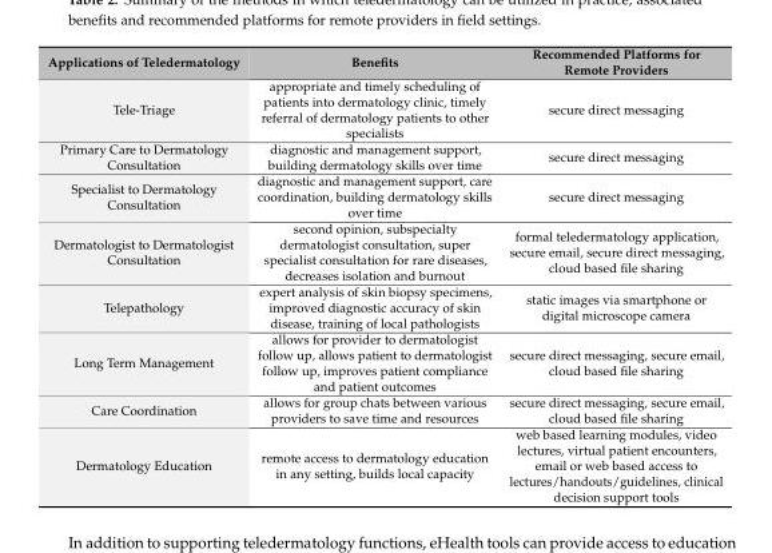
<table><thead><tr><td>Applications of Teledermatology</td><td>Benefits</td><td>Recommended Platforms for Remote Providers</td></tr></thead><tbody><tr><td>Tele-Triage</td><td>appropriate and timely scheduling of patients into dermatology clinic, timely referral of dermatology patients to other specialists</td><td>secure direct messaging</td></tr><tr><td>Primary Care to Dermatology Consultation</td><td>diagnostic and management support, building dermatology skills over time</td><td>secure direct messaging</td></tr><tr><td>Specialist to Dermatology Consultation</td><td>diagnostic and management support, care coordination, building dermatology skills over time</td><td>secure direct messaging</td></tr><tr><td>Dermatologist to Dermatologist Consultation</td><td>second opinion, subspecialty dermatologist consultation, super specialist consultation for rare diseases, decreases isolation and burnout</td><td>formal teledermatology application, secure email, secure direct messaging, cloud based file sharing</td></tr><tr><td>Telepathology</td><td>expert analysis of skin biopsy specimens, improved diagnostic accuracy of skin disease, training of local pathologists</td><td>static images via smartphone or digital microscope camera</td></tr><tr><td>Long Term Management</td><td>allows for provider to dermatologist follow up, allows patient to dermatologist follow up, improves patient compliance and patient outcomes</td><td>secure direct messaging, secure email, cloud based file sharing</td></tr><tr><td>Care Coordination</td><td>allows for group chats between various providers to save time and resources</td><td>secure direct messaging, secure email, cloud based file sharing</td></tr><tr><td>Dermatology Education</td><td>remote access to dermatology education in any setting, builds local capacity</td><td>web based learning modules, video lectures, virtual patient encounters, email or web based access to lectures/handouts/guidelines, clinical decision support tools</td></tr></tbody></table>